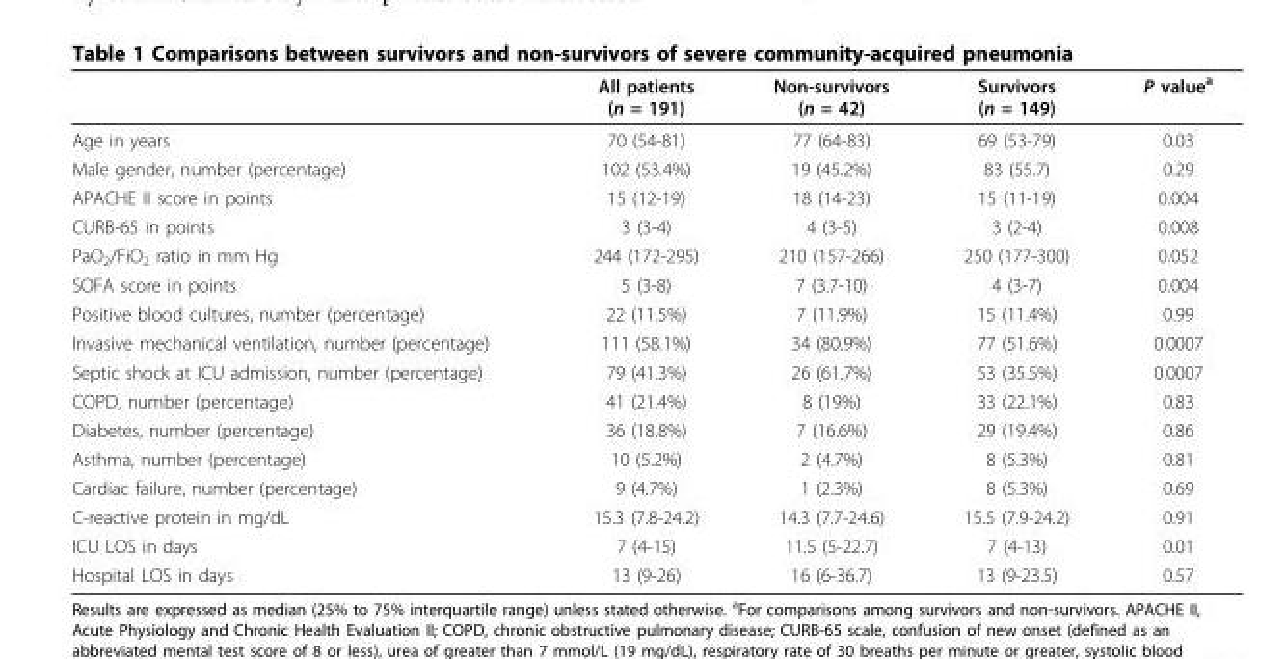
<table><thead><tr><td></td><td>All patients (n = 191)</td><td>Non-survivors (n = 42)</td><td>Survivors (n = 149)</td><td>P value<sup>a</sup></td></tr></thead><tbody><tr><td>Age in years</td><td>70 (54-81)</td><td>77 (64-83)</td><td>69 (53-79)</td><td>0.03</td></tr><tr><td>Male gender, number (percentage)</td><td>102 (53.4%)</td><td>19 (45.2%)</td><td>83 (55.7)</td><td>0.29</td></tr><tr><td>APACHE II score in points</td><td>15 (12-19)</td><td>18 (14-23)</td><td>15 (11-19)</td><td>0.004</td></tr><tr><td>CURB-65 in points</td><td>3 (3-4)</td><td>4 (3-5)</td><td>3 (2-4)</td><td>0.008</td></tr><tr><td>PaO<sub>2</sub>/FiO<sub>2</sub> ratio in mm Hg</td><td>244 (172-295)</td><td>210 (157-266)</td><td>250 (177-300)</td><td>0.052</td></tr><tr><td>SOFA score in points</td><td>5 (3-8)</td><td>7 (3.7-10)</td><td>4 (3-7)</td><td>0.004</td></tr><tr><td>Positive blood cultures, number (percentage)</td><td>22 (11.5%)</td><td>7 (11.9%)</td><td>15 (11.4%)</td><td>0.99</td></tr><tr><td>Invasive mechanical ventilation, number (percentage)</td><td>111 (58.1%)</td><td>34 (80.9%)</td><td>77 (51.6%)</td><td>0.0007</td></tr><tr><td>Septic shock at ICU admission, number (percentage)</td><td>79 (41.3%)</td><td>26 (61.7%)</td><td>53 (35.5%)</td><td>0.0007</td></tr><tr><td>COPD, number (percentage)</td><td>41 (21.4%)</td><td>8 (19%)</td><td>33 (22.1%)</td><td>0.83</td></tr><tr><td>Diabetes, number (percentage)</td><td>36 (18.8%)</td><td>7 (16.6%)</td><td>29 (19.4%)</td><td>0.86</td></tr><tr><td>Asthma, number (percentage)</td><td>10 (5.2%)</td><td>2 (4.7%)</td><td>8 (5.3%)</td><td>0.81</td></tr><tr><td>Cardiac failure, number (percentage)</td><td>9 (4.7%)</td><td>1 (2.3%)</td><td>8 (5.3%)</td><td>0.69</td></tr><tr><td>C-reactive protein in mg/dL</td><td>15.3 (7.8-24.2)</td><td>14.3 (7.7-24.6)</td><td>15.5 (7.9-24.2)</td><td>0.91</td></tr><tr><td>ICU LOS in days</td><td>7 (4-15)</td><td>11.5 (5-22.7)</td><td>7 (4-13)</td><td>0.01</td></tr><tr><td>Hospital LOS in days</td><td>13 (9-26)</td><td>16 (6-36.7)</td><td>13 (9-23.5)</td><td>0.57</td></tr></tbody></table>